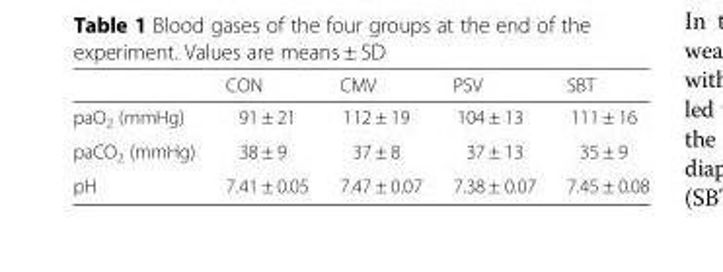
<table><thead><tr><td></td><td>CON</td><td>CMV</td><td>PSV</td><td>SBT</td></tr></thead><tbody><tr><td>paO<sub>2</sub> (mmHg)</td><td>91 ± 21</td><td>112 ± 19</td><td>104 ± 13</td><td>111 ± 16</td></tr><tr><td>paCO<sub>2</sub> (mmHg)</td><td>38 ± 9</td><td>37 ± 8</td><td>37 ± 13</td><td>35 ± 9</td></tr><tr><td>pH</td><td>7.41 ± 0.05</td><td>7.47 ± 0.07</td><td>7.38 ± 0.07</td><td>7.45 ± 0.08</td></tr></tbody></table>